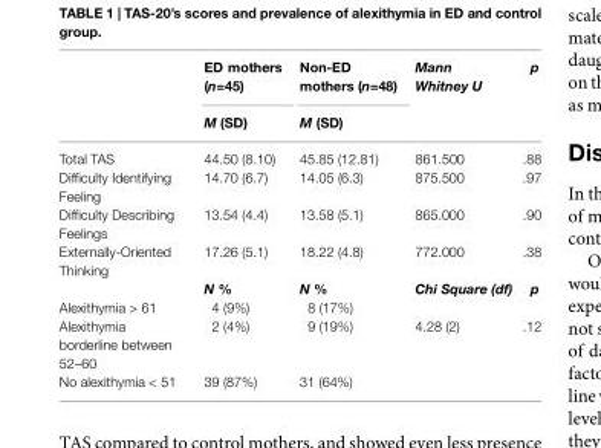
<table><thead><tr><td rowspan="2"></td><td rowspan="2">ED mothers (n=45) M (SD)</td><td rowspan="2">Non-ED mothers (n=48) M (SD)</td><td rowspan="2">Mann Whitney U</td><td rowspan="2">p</td></tr><tr></tr></thead><tbody><tr><td>Total TAS</td><td>44.50 (8.10)</td><td>45.85 (12.81)</td><td>861.500</td><td>.88</td></tr><tr><td>Difficulty Identifying Feeling</td><td>14.70 (6.7)</td><td>14.05 (6.3)</td><td>875.500</td><td>.97</td></tr><tr><td>Difficulty Describing Feelings</td><td>13.54 (4.4)</td><td>13.58 (5.1)</td><td>865.000</td><td>.90</td></tr><tr><td rowspan="2">Externally-Oriented Thinking</td><td>17.26 (5.1)</td><td>18.22 (4.8)</td><td>772.000</td><td>.38</td></tr><tr><td>N %</td><td>N %</td><td>Chi Square (df)</td><td>p</td></tr><tr><td>Alexithymia &gt; 61</td><td>4 (9%)</td><td>8 (17%)</td><td></td><td></td></tr><tr><td>Alexithymia borderline between 52–60</td><td>2 (4%)</td><td>9 (19%)</td><td>4.28 (2)</td><td>.12</td></tr><tr><td>No alexithymia &lt; 51</td><td>39 (87%)</td><td>31 (64%)</td><td></td><td></td></tr></tbody></table>